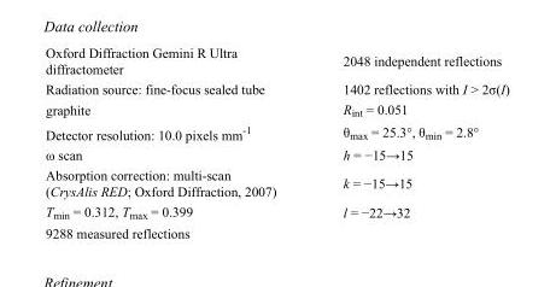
<table><tbody><tr><td>Oxford Diffraction Gemini R Ultra diffractometer</td><td>2048 independent reflections</td></tr><tr><td>Radiation source: fine-focus sealed tube</td><td>1402 reflections with I &gt; 2σ(I)</td></tr><tr><td>graphite</td><td>R<sub>int</sub> = 0.051</td></tr><tr><td>Detector resolution: 10.0 pixels mm<sup>-1</sup></td><td>θ<sub>max</sub> = 25.3°, θ<sub>min</sub> = 2.8°</td></tr><tr><td>ω scan</td><td>h = −15→15</td></tr><tr><td>Absorption correction: multi-scan (CrysAlis RED; Oxford Diffraction, 2007)</td><td>k = −15→15</td></tr><tr><td>T<sub>min</sub> = 0.312, T<sub>max</sub> = 0.399</td><td>l = −22→32</td></tr><tr><td>9288 measured reflections</td><td></td></tr></tbody></table>